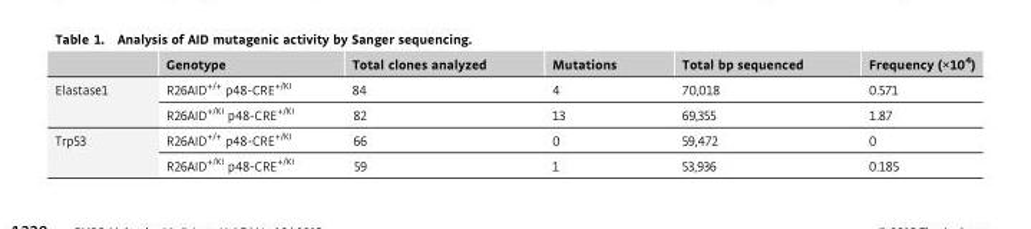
<table><thead><tr><td></td><td>Genotype</td><td>Total clones analyzed</td><td>Mutations</td><td>Total bp sequenced</td><td>Frequency (×10<sup>4</sup>)</td></tr></thead><tbody><tr><td rowspan="2">Elastase1</td><td>R26AID<sup>+/+</sup> p48-CRE<sup>+/KI</sup></td><td>84</td><td>4</td><td>70,018</td><td>0.571</td></tr><tr><td>R26AID<sup>+/KI</sup> p48-CRE<sup>+/KI</sup></td><td>82</td><td>13</td><td>69,355</td><td>1.87</td></tr><tr><td rowspan="2">Trp53</td><td>R26AID<sup>+/+</sup> p48-CRE<sup>+/KI</sup></td><td>66</td><td>0</td><td>59,472</td><td>0</td></tr><tr><td>R26AID<sup>+/KI</sup> p48-CRE<sup>+/KI</sup></td><td>59</td><td>1</td><td>53,936</td><td>0.185</td></tr></tbody></table>